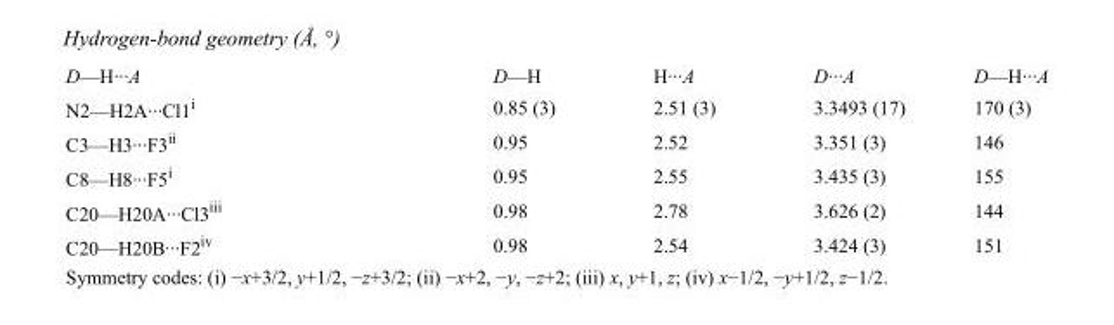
<table><tbody><tr><td>D—H···A</td><td>D—H</td><td>H···A</td><td>D···A</td><td>D—H···A</td></tr><tr><td>N2—H2A···Cl1<sup>i</sup></td><td>0.85 (3)</td><td>2.51 (3)</td><td>3.3493 (17)</td><td>170 (3)</td></tr><tr><td>C3—H3···F3<sup>ii</sup></td><td>0.95</td><td>2.52</td><td>3.351 (3)</td><td>146</td></tr><tr><td>C8—H8···F5<sup>i</sup></td><td>0.95</td><td>2.55</td><td>3.435 (3)</td><td>155</td></tr><tr><td>C20—H20A···Cl3<sup>iii</sup></td><td>0.98</td><td>2.78</td><td>3.626 (2)</td><td>144</td></tr><tr><td>C20—H20B···F2<sup>iv</sup></td><td>0.98</td><td>2.54</td><td>3.424 (3)</td><td>151</td></tr></tbody></table>